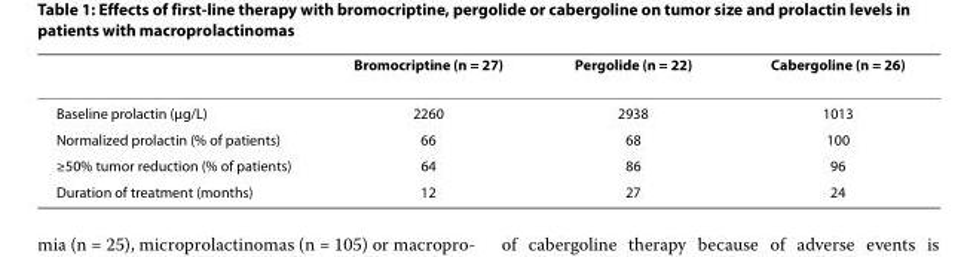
<table><thead><tr><td></td><td>Bromocriptine (n = 27)</td><td>Pergolide (n = 22)</td><td>Cabergoline (n = 26)</td></tr></thead><tbody><tr><td>Baseline prolactin (μg/L)</td><td>2260</td><td>2938</td><td>1013</td></tr><tr><td>Normalized prolactin (% of patients)</td><td>66</td><td>68</td><td>100</td></tr><tr><td>≥50% tumor reduction (% of patients)</td><td>64</td><td>86</td><td>96</td></tr><tr><td>Duration of treatment (months)</td><td>12</td><td>27</td><td>24</td></tr></tbody></table>